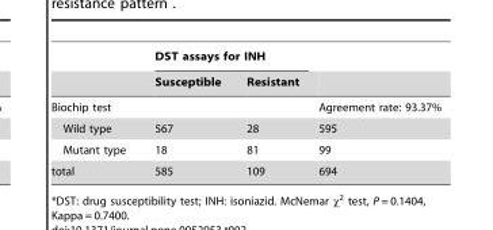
<table><thead><tr><td rowspan="2"></td><td colspan="2">DST assays for INH</td><td rowspan="2"></td></tr><tr><td>Susceptible</td><td>Resistant</td></tr></thead><tbody><tr><td>Biochip test</td><td></td><td></td><td>Agreement rate: 93.37%</td></tr><tr><td>Wild type</td><td>567</td><td>28</td><td>595</td></tr><tr><td>Mutant type</td><td>18</td><td>81</td><td>99</td></tr><tr><td>total</td><td>585</td><td>109</td><td>694</td></tr></tbody></table>